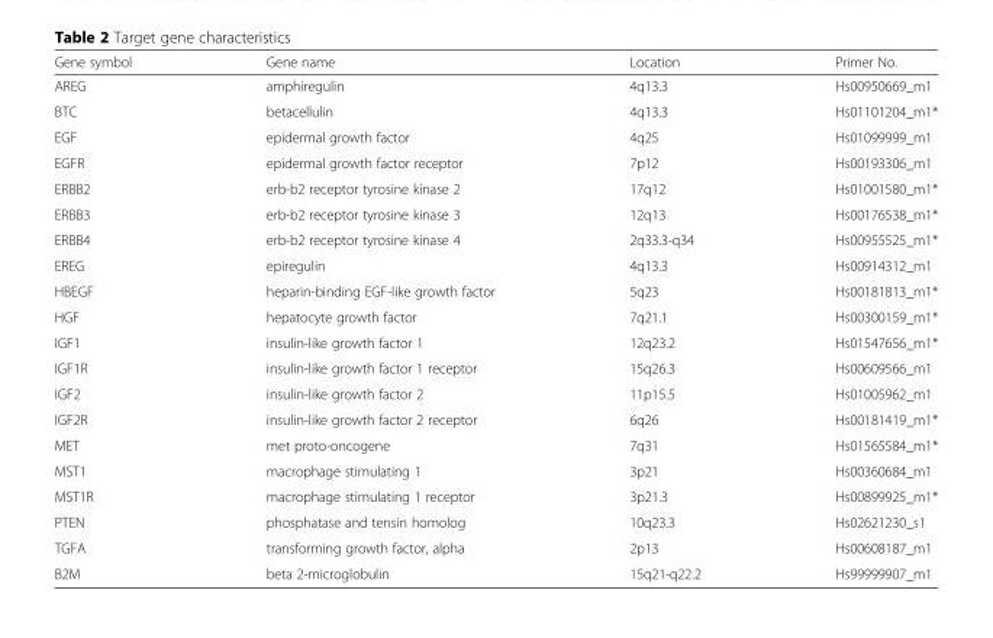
<table><thead><tr><td>Gene symbol</td><td>Gene name</td><td>Location</td><td>Primer No.</td></tr></thead><tbody><tr><td>AREG</td><td>amphiregulin</td><td>4q13.3</td><td>Hs00950669_m1</td></tr><tr><td>BTC</td><td>betacellulin</td><td>4q13.3</td><td>Hs01101204_m1*</td></tr><tr><td>EGF</td><td>epidermal growth factor</td><td>4q25</td><td>Hs01099999_m1</td></tr><tr><td>EGFR</td><td>epidermal growth factor receptor</td><td>7p12</td><td>Hs00193306_m1</td></tr><tr><td>ERBB2</td><td>erb-b2 receptor tyrosine kinase 2</td><td>17q12</td><td>Hs01001580_m1*</td></tr><tr><td>ERBB3</td><td>erb-b2 receptor tyrosine kinase 3</td><td>12q13</td><td>Hs00176538_m1*</td></tr><tr><td>ERBB4</td><td>erb-b2 receptor tyrosine kinase 4</td><td>2q33.3-q34</td><td>Hs00955525_m1*</td></tr><tr><td>EREG</td><td>epiregulin</td><td>4q13.3</td><td>Hs00914312_m1</td></tr><tr><td>HBEGF</td><td>heparin-binding EGF-like growth factor</td><td>5q23</td><td>Hs00181813_m1*</td></tr><tr><td>HGF</td><td>hepatocyte growth factor</td><td>7q21.1</td><td>Hs00300159_m1*</td></tr><tr><td>IGF1</td><td>insulin-like growth factor 1</td><td>12q23.2</td><td>Hs01547656_m1*</td></tr><tr><td>IGF1R</td><td>insulin-like growth factor 1 receptor</td><td>15q26.3</td><td>Hs00609566_m1</td></tr><tr><td>IGF2</td><td>insulin-like growth factor 2</td><td>11p15.5</td><td>Hs01005962_m1</td></tr><tr><td>IGF2R</td><td>insulin-like growth factor 2 receptor</td><td>6q26</td><td>Hs00181419_m1*</td></tr><tr><td>MET</td><td>met proto-oncogene</td><td>7q31</td><td>Hs01565584_m1*</td></tr><tr><td>MST1</td><td>macrophage stimulating 1</td><td>3p21</td><td>Hs00360684_m1</td></tr><tr><td>MST1R</td><td>macrophage stimulating 1 receptor</td><td>3p21.3</td><td>Hs00899925_m1*</td></tr><tr><td>PTEN</td><td>phosphatase and tensin homolog</td><td>10q23.3</td><td>Hs02621230_s1</td></tr><tr><td>TGFA</td><td>transforming growth factor, alpha</td><td>2p13</td><td>Hs00608187_m1</td></tr><tr><td>B2M</td><td>beta 2-microglobulin</td><td>15q21-q22.2</td><td>Hs99999907_m1</td></tr></tbody></table>